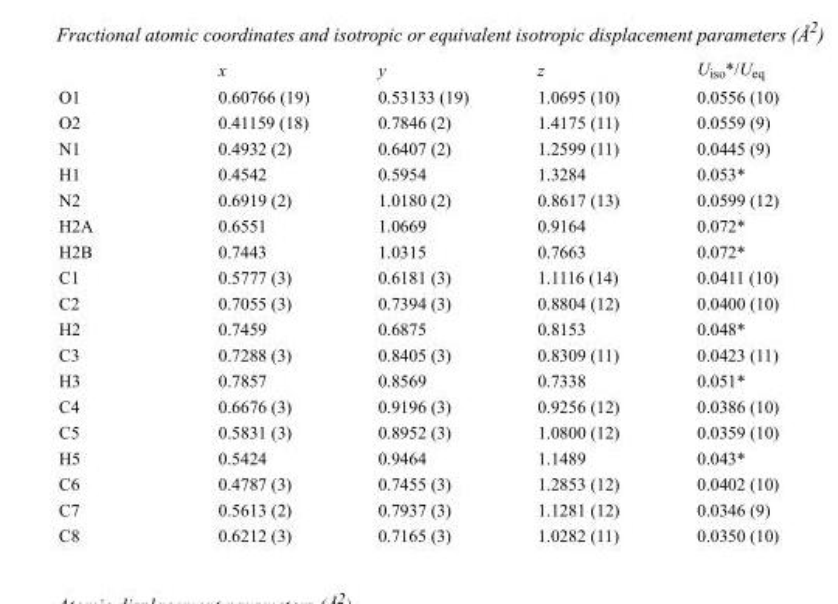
<table><thead><tr><td></td><td>x</td><td>y</td><td>z</td><td>U<sub>iso</sub>*/U<sub>eq</sub></td></tr></thead><tbody><tr><td>O1</td><td>0.60766 (19)</td><td>0.53133 (19)</td><td>1.0695 (10)</td><td>0.0556 (10)</td></tr><tr><td>O2</td><td>0.41159 (18)</td><td>0.7846 (2)</td><td>1.4175 (11)</td><td>0.0559 (9)</td></tr><tr><td>N1</td><td>0.4932 (2)</td><td>0.6407 (2)</td><td>1.2599 (11)</td><td>0.0445 (9)</td></tr><tr><td>H1</td><td>0.4542</td><td>0.5954</td><td>1.3284</td><td>0.053*</td></tr><tr><td>N2</td><td>0.6919 (2)</td><td>1.0180 (2)</td><td>0.8617 (13)</td><td>0.0599 (12)</td></tr><tr><td>H2A</td><td>0.6551</td><td>1.0669</td><td>0.9164</td><td>0.072*</td></tr><tr><td>H2B</td><td>0.7443</td><td>1.0315</td><td>0.7663</td><td>0.072*</td></tr><tr><td>C1</td><td>0.5777 (3)</td><td>0.6181 (3)</td><td>1.1116 (14)</td><td>0.0411 (10)</td></tr><tr><td>C2</td><td>0.7055 (3)</td><td>0.7394 (3)</td><td>0.8804 (12)</td><td>0.0400 (10)</td></tr><tr><td>H2</td><td>0.7459</td><td>0.6875</td><td>0.8153</td><td>0.048*</td></tr><tr><td>C3</td><td>0.7288 (3)</td><td>0.8405 (3)</td><td>0.8309 (11)</td><td>0.0423 (11)</td></tr><tr><td>H3</td><td>0.7857</td><td>0.8569</td><td>0.7338</td><td>0.051*</td></tr><tr><td>C4</td><td>0.6676 (3)</td><td>0.9196 (3)</td><td>0.9256 (12)</td><td>0.0386 (10)</td></tr><tr><td>C5</td><td>0.5831 (3)</td><td>0.8952 (3)</td><td>1.0800 (12)</td><td>0.0359 (10)</td></tr><tr><td>H5</td><td>0.5424</td><td>0.9464</td><td>1.1489</td><td>0.043*</td></tr><tr><td>C6</td><td>0.4787 (3)</td><td>0.7455 (3)</td><td>1.2853 (12)</td><td>0.0402 (10)</td></tr><tr><td>C7</td><td>0.5613 (2)</td><td>0.7937 (3)</td><td>1.1281 (12)</td><td>0.0346 (9)</td></tr><tr><td>C8</td><td>0.6212 (3)</td><td>0.7165 (3)</td><td>1.0282 (11)</td><td>0.0350 (10)</td></tr></tbody></table>